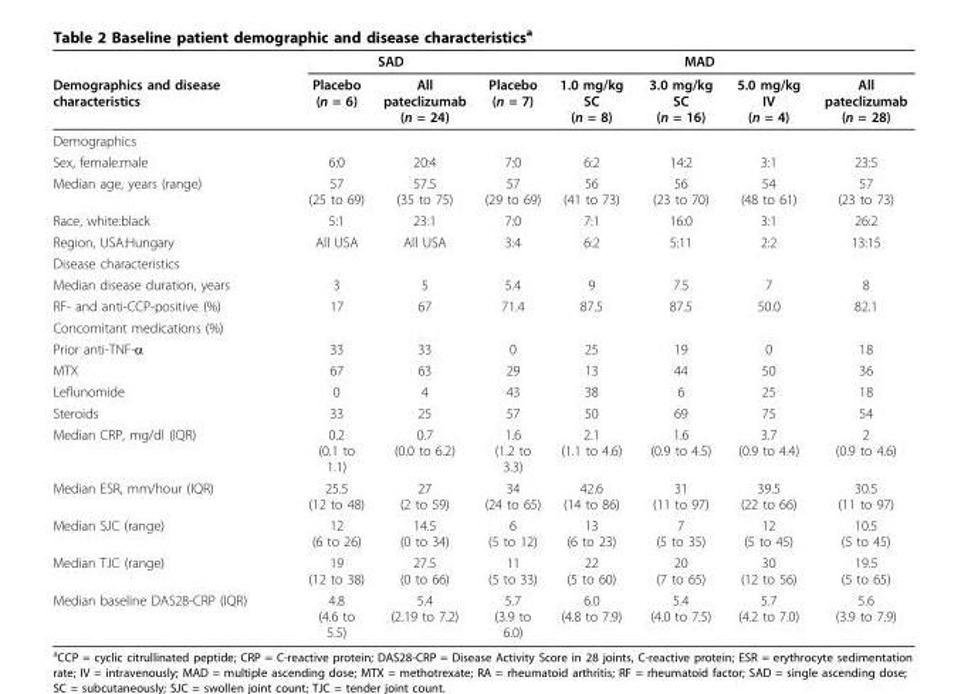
<table><thead><tr><td rowspan="2">Demographics and disease characteristics</td><td colspan="2">SAD</td><td colspan="5">MAD</td></tr><tr><td>Placebo (n = 6)</td><td>All pateclizumab (n = 24)</td><td>Placebo (n = 7)</td><td>1.0 mg/kg SC (n = 8)</td><td>3.0 mg/kg SC (n = 16)</td><td>5.0 mg/kg IV (n = 4)</td><td>All pateclizumab (n = 28)</td></tr></thead><tbody><tr><td colspan="8">Demographics</td></tr><tr><td>Sex, female:male</td><td>6:0</td><td>20:4</td><td>7:0</td><td>6:2</td><td>14:2</td><td>3:1</td><td>23:5</td></tr><tr><td>Median age, years (range)</td><td>57 (25 to 69)</td><td>57.5 (35 to 75)</td><td>57 (29 to 69)</td><td>56 (41 to 73)</td><td>56 (23 to 70)</td><td>54 (48 to 61)</td><td>57 (23 to 73)</td></tr><tr><td>Race, white:black</td><td>5:1</td><td>23:1</td><td>7:0</td><td>7:1</td><td>16:0</td><td>3:1</td><td>26:2</td></tr><tr><td>Region, USA:Hungary</td><td>All USA</td><td>All USA</td><td>3:4</td><td>6:2</td><td>5:11</td><td>2:2</td><td>13:15</td></tr><tr><td colspan="8">Disease characteristics</td></tr><tr><td>Median disease duration, years</td><td>3</td><td>5</td><td>5.4</td><td>9</td><td>7.5</td><td>7</td><td>8</td></tr><tr><td>RF- and anti-CCP-positive (%)</td><td>17</td><td>67</td><td>71.4</td><td>87.5</td><td>87.5</td><td>50.0</td><td>82.1</td></tr><tr><td colspan="8">Concomitant medications (%)</td></tr><tr><td>Prior anti-TNF-α</td><td>33</td><td>33</td><td>0</td><td>25</td><td>19</td><td>0</td><td>18</td></tr><tr><td>MTX</td><td>67</td><td>63</td><td>29</td><td>13</td><td>44</td><td>50</td><td>36</td></tr><tr><td>Leflunomide</td><td>0</td><td>4</td><td>43</td><td>38</td><td>6</td><td>25</td><td>18</td></tr><tr><td>Steroids</td><td>33</td><td>25</td><td>57</td><td>50</td><td>69</td><td>75</td><td>54</td></tr><tr><td>Median CRP, mg/dl (IQR)</td><td>0.2 (0.1 to 1.1)</td><td>0.7 (0.0 to 6.2)</td><td>1.6 (1.2 to 3.3)</td><td>2.1 (1.1 to 4.6)</td><td>1.6 (0.9 to 4.5)</td><td>3.7 (0.9 to 4.4)</td><td>2 (0.9 to 4.6)</td></tr><tr><td>Median ESR, mm/hour (IQR)</td><td>25.5 (12 to 48)</td><td>27 (2 to 59)</td><td>34 (24 to 65)</td><td>42.6 (14 to 86)</td><td>31 (11 to 97)</td><td>39.5 (22 to 66)</td><td>30.5 (11 to 97)</td></tr><tr><td>Median SJC (range)</td><td>12 (6 to 26)</td><td>14.5 (0 to 34)</td><td>6 (5 to 12)</td><td>13 (6 to 23)</td><td>7 (5 to 35)</td><td>12 (5 to 45)</td><td>10.5 (5 to 45)</td></tr><tr><td>Median TJC (range)</td><td>19 (12 to 38)</td><td>27.5 (0 to 66)</td><td>11 (5 to 33)</td><td>22 (5 to 60)</td><td>20 (7 to 65)</td><td>30 (12 to 56)</td><td>19.5 (5 to 65)</td></tr><tr><td>Median baseline DAS28-CRP (IQR)</td><td>4.8 (4.6 to 5.5)</td><td>5.4 (2.19 to 7.2)</td><td>5.7 (3.9 to 6.0)</td><td>6.0 (4.8 to 7.9)</td><td>5.4 (4.0 to 7.5)</td><td>5.7 (4.2 to 7.0)</td><td>5.6 (3.9 to 7.9)</td></tr></tbody></table>